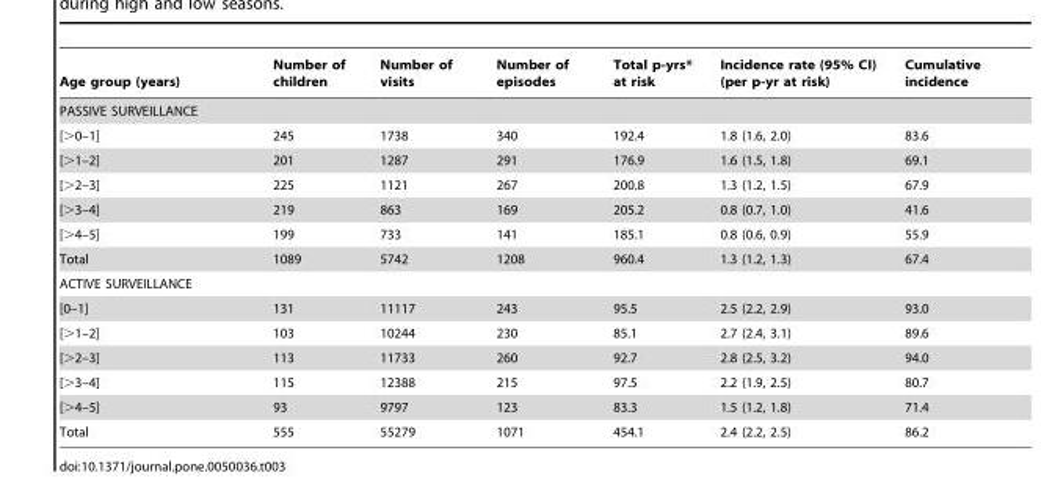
<table><thead><tr><td>Age group (years)</td><td>Number of children</td><td>Number of visits</td><td>Number of episodes</td><td>Total p-yrs* at risk</td><td>Incidence rate (95% CI) (per p-yr at risk)</td><td>Cumulative incidence</td></tr></thead><tbody><tr><td colspan="7">PASSIVE SURVEILLANCE</td></tr><tr><td>[&gt;0–1]</td><td>245</td><td>1738</td><td>340</td><td>192.4</td><td>1.8 (1.6, 2.0)</td><td>83.6</td></tr><tr><td>[&gt;1–2]</td><td>201</td><td>1287</td><td>291</td><td>176.9</td><td>1.6 (1.5, 1.8)</td><td>69.1</td></tr><tr><td>[&gt;2–3]</td><td>225</td><td>1121</td><td>267</td><td>200.8</td><td>1.3 (1.2, 1.5)</td><td>67.9</td></tr><tr><td>[&gt;3–4]</td><td>219</td><td>863</td><td>169</td><td>205.2</td><td>0.8 (0.7, 1.0)</td><td>41.6</td></tr><tr><td>[&gt;4–5]</td><td>199</td><td>733</td><td>141</td><td>185.1</td><td>0.8 (0.6, 0.9)</td><td>55.9</td></tr><tr><td>Total</td><td>1089</td><td>5742</td><td>1208</td><td>960.4</td><td>1.3 (1.2, 1.3)</td><td>67.4</td></tr><tr><td colspan="7">ACTIVE SURVEILLANCE</td></tr><tr><td>[0–1]</td><td>131</td><td>11117</td><td>243</td><td>95.5</td><td>2.5 (2.2, 2.9)</td><td>93.0</td></tr><tr><td>[&gt;1–2]</td><td>103</td><td>10244</td><td>230</td><td>85.1</td><td>2.7 (2.4, 3.1)</td><td>89.6</td></tr><tr><td>[&gt;2–3]</td><td>113</td><td>11733</td><td>260</td><td>92.7</td><td>2.8 (2.5, 3.2)</td><td>94.0</td></tr><tr><td>[&gt;3–4]</td><td>115</td><td>12388</td><td>215</td><td>97.5</td><td>2.2 (1.9, 2.5)</td><td>80.7</td></tr><tr><td>[&gt;4–5]</td><td>93</td><td>9797</td><td>123</td><td>83.3</td><td>1.5 (1.2, 1.8)</td><td>71.4</td></tr><tr><td>Total</td><td>555</td><td>55279</td><td>1071</td><td>454.1</td><td>2.4 (2.2, 2.5)</td><td>86.2</td></tr></tbody></table>